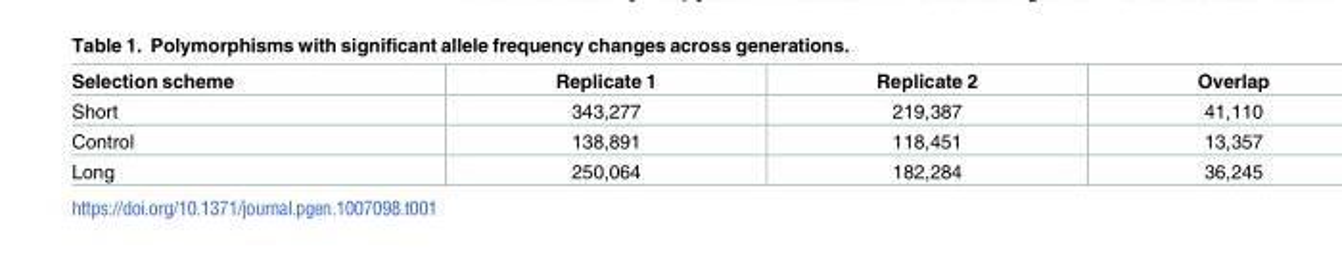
<table><thead><tr><td>Selection scheme</td><td>Replicate 1</td><td>Replicate 2</td><td>Overlap</td></tr></thead><tbody><tr><td>Short</td><td>343,277</td><td>219,387</td><td>41,110</td></tr><tr><td>Control</td><td>138,891</td><td>118,451</td><td>13,357</td></tr><tr><td>Long</td><td>250,064</td><td>182,284</td><td>36,245</td></tr></tbody></table>